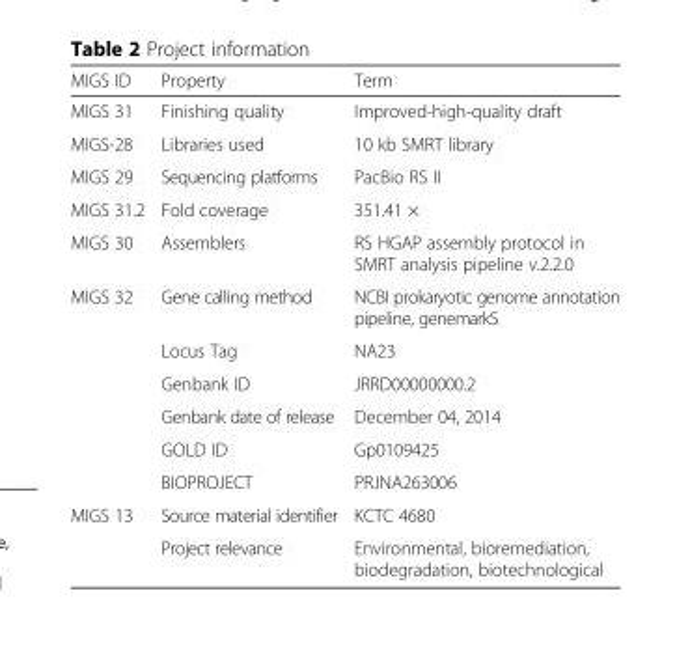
<table><thead><tr><td>MIGS ID</td><td>Property</td><td>Term</td></tr></thead><tbody><tr><td>MIGS 31</td><td>Finishing quality</td><td>Improved-high-quality draft</td></tr><tr><td>MIGS-28</td><td>Libraries used</td><td>10 kb SMRT library</td></tr><tr><td>MIGS 29</td><td>Sequencing platforms</td><td>PacBio RS II</td></tr><tr><td>MIGS 31.2</td><td>Fold coverage</td><td>351.41 ×</td></tr><tr><td>MIGS 30</td><td>Assemblers</td><td>RS HGAP assembly protocol in SMRT analysis pipeline v.2.2.0</td></tr><tr><td rowspan="6">MIGS 32</td><td>Gene calling method</td><td>NCBI prokaryotic genome annotation pipeline, genemarkS</td></tr><tr><td>Locus Tag</td><td>NA23</td></tr><tr><td>Genbank ID</td><td>JRRD00000000.2</td></tr><tr><td>Genbank date of release</td><td>December 04, 2014</td></tr><tr><td>GOLD ID</td><td>Gp0109425</td></tr><tr><td>BIOPROJECT</td><td>PRJNA263006</td></tr><tr><td rowspan="2">MIGS 13</td><td>Source material identifier</td><td>KCTC 4680</td></tr><tr><td>Project relevance</td><td>Environmental, bioremediation, biodegradation, biotechnological</td></tr></tbody></table>